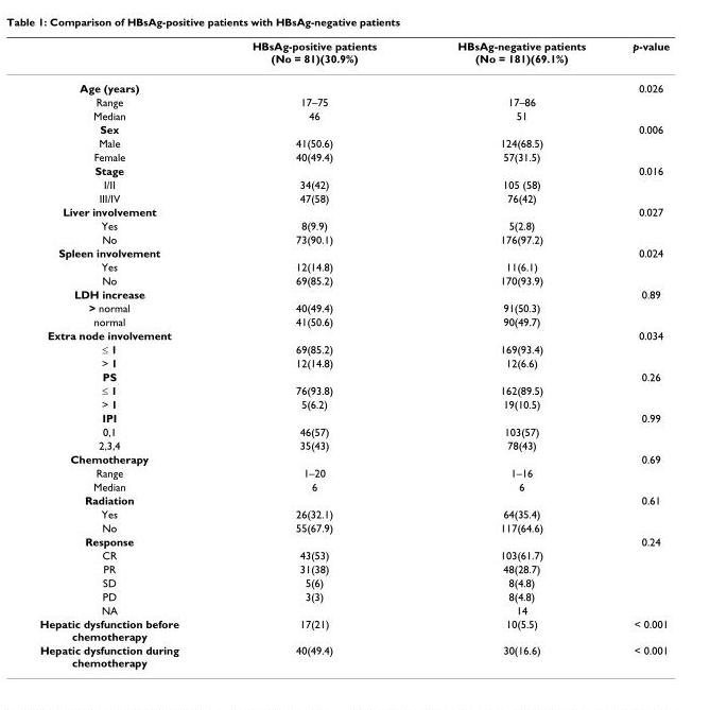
<table><thead><tr><td></td><td>HBsAg-positive patients (No = 81)(30.9%)</td><td>HBsAg-negative patients (No = 181)(69.1%)</td><td>p-value</td></tr></thead><tbody><tr><td>Age (years)</td><td></td><td></td><td>0.026</td></tr><tr><td>Range</td><td>17–75</td><td>17–86</td><td></td></tr><tr><td>Median</td><td>46</td><td>51</td><td></td></tr><tr><td>Sex</td><td></td><td></td><td>0.006</td></tr><tr><td>Male</td><td>41(50.6)</td><td>124(68.5)</td><td></td></tr><tr><td>Female</td><td>40(49.4)</td><td>57(31.5)</td><td></td></tr><tr><td>Stage</td><td></td><td></td><td>0.016</td></tr><tr><td>I/II</td><td>34(42)</td><td>105 (58)</td><td></td></tr><tr><td>III/IV</td><td>47(58)</td><td>76(42)</td><td></td></tr><tr><td>Liver involvement</td><td></td><td></td><td>0.027</td></tr><tr><td>Yes</td><td>8(9.9)</td><td>5(2.8)</td><td></td></tr><tr><td>No</td><td>73(90.1)</td><td>176(97.2)</td><td></td></tr><tr><td>Spleen involvement</td><td></td><td></td><td>0.024</td></tr><tr><td>Yes</td><td>12(14.8)</td><td>11(6.1)</td><td></td></tr><tr><td>No</td><td>69(85.2)</td><td>170(93.9)</td><td></td></tr><tr><td>LDH increase</td><td></td><td></td><td>0.89</td></tr><tr><td>&gt; normal</td><td>40(49.4)</td><td>91(50.3)</td><td></td></tr><tr><td>normal</td><td>41(50.6)</td><td>90(49.7)</td><td></td></tr><tr><td>Extra node involvement</td><td></td><td></td><td>0.034</td></tr><tr><td>≤ 1</td><td>69(85.2)</td><td>169(93.4)</td><td></td></tr><tr><td>&gt; 1</td><td>12(14.8)</td><td>12(6.6)</td><td></td></tr><tr><td>PS</td><td></td><td></td><td>0.26</td></tr><tr><td>≤ 1</td><td>76(93.8)</td><td>162(89.5)</td><td></td></tr><tr><td>&gt; 1</td><td>5(6.2)</td><td>19(10.5)</td><td></td></tr><tr><td>IPI</td><td></td><td></td><td>0.99</td></tr><tr><td>0,1</td><td>46(57)</td><td>103(57)</td><td></td></tr><tr><td>2,3,4</td><td>35(43)</td><td>78(43)</td><td></td></tr><tr><td>Chemotherapy</td><td></td><td></td><td>0.69</td></tr><tr><td>Range</td><td>1–20</td><td>1–16</td><td></td></tr><tr><td>Median</td><td>6</td><td>6</td><td></td></tr><tr><td>Radiation</td><td></td><td></td><td>0.61</td></tr><tr><td>Yes</td><td>26(32.1)</td><td>64(35.4)</td><td></td></tr><tr><td>No</td><td>55(67.9)</td><td>117(64.6)</td><td></td></tr><tr><td>Response</td><td></td><td></td><td>0.24</td></tr><tr><td>CR</td><td>43(53)</td><td>103(61.7)</td><td></td></tr><tr><td>PR</td><td>31(38)</td><td>48(28.7)</td><td></td></tr><tr><td>SD</td><td>5(6)</td><td>8(4.8)</td><td></td></tr><tr><td>PD</td><td>3(3)</td><td>8(4.8)</td><td></td></tr><tr><td>NA</td><td></td><td>14</td><td></td></tr><tr><td>Hepatic dysfunction before chemotherapy</td><td>17(21)</td><td>10(5.5)</td><td>&lt; 0.001</td></tr><tr><td>Hepatic dysfunction during chemotherapy</td><td>40(49.4)</td><td>30(16.6)</td><td>&lt; 0.001</td></tr></tbody></table>